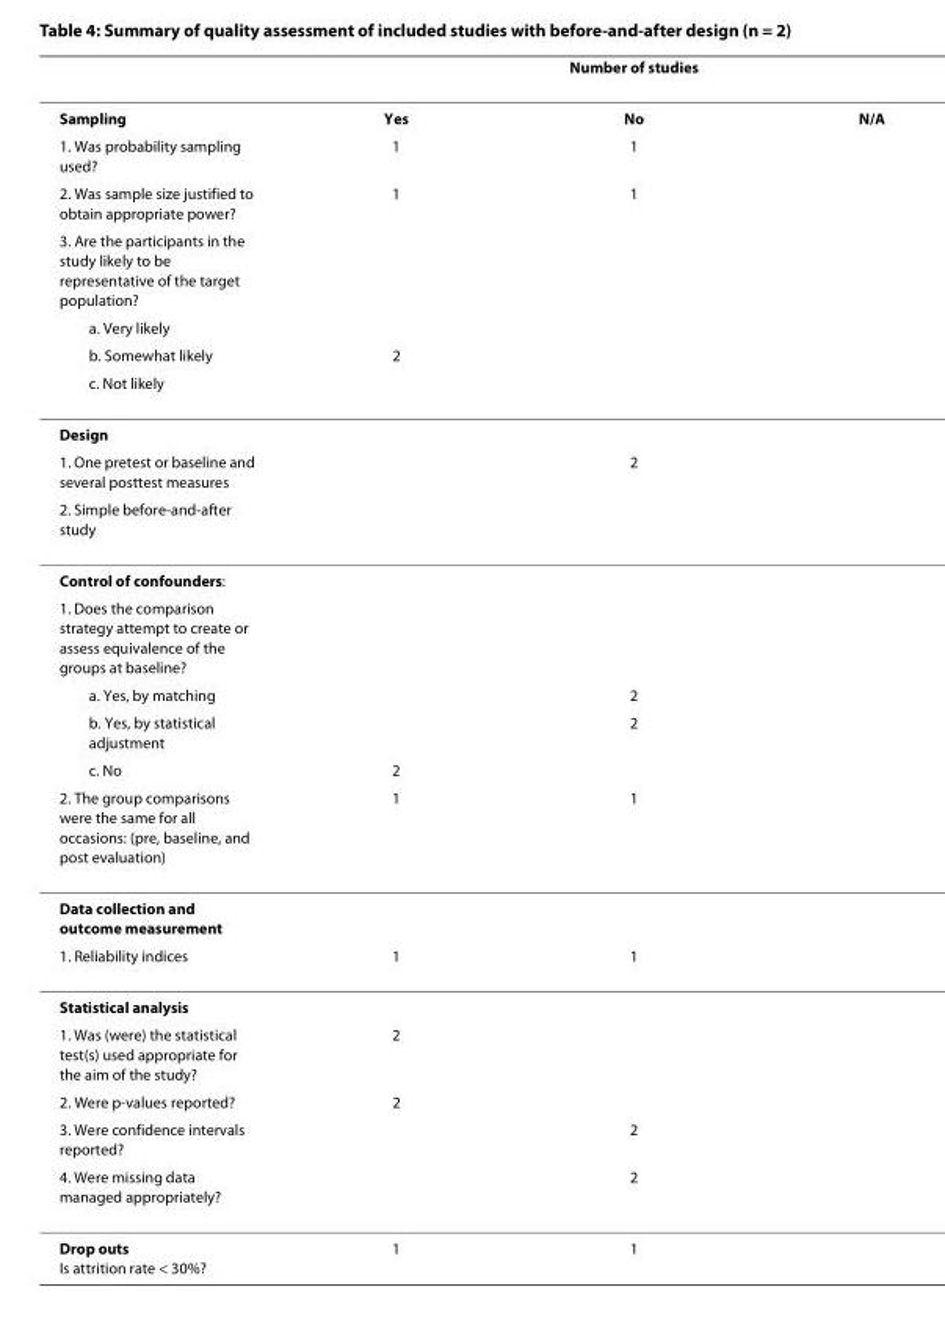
<table><thead><tr><td rowspan="2">Sampling</td><td colspan="3">Number of studies</td></tr><tr><td>Yes</td><td>No</td><td>N/A</td></tr></thead><tbody><tr><td>1. Was probability sampling used?</td><td>1</td><td>1</td><td></td></tr><tr><td>2. Was sample size justified to obtain appropriate power?</td><td>1</td><td>1</td><td></td></tr><tr><td colspan="4">3. Are the participants in the study likely to be representative of the target population?</td></tr><tr><td colspan="4">a. Very likely</td></tr><tr><td>b. Somewhat likely</td><td>2</td><td></td><td></td></tr><tr><td colspan="4">c. Not likely</td></tr><tr><td colspan="4">Design</td></tr><tr><td>1. One pretest or baseline and several posttest measures</td><td></td><td>2</td><td></td></tr><tr><td colspan="4">2. Simple before-and-after study</td></tr><tr><td colspan="4">Control of confounders:</td></tr><tr><td colspan="4">1. Does the comparison strategy attempt to create or assess equivalence of the groups at baseline?</td></tr><tr><td>a. Yes, by matching</td><td></td><td>2</td><td></td></tr><tr><td>b. Yes, by statistical adjustment</td><td></td><td>2</td><td></td></tr><tr><td>c. No</td><td>2</td><td></td><td></td></tr><tr><td>2. The group comparisons were the same for all occasions: (pre, baseline, and post evaluation)</td><td>1</td><td>1</td><td></td></tr><tr><td colspan="4">Data collection and outcome measurement</td></tr><tr><td>1. Reliability indices</td><td>1</td><td>1</td><td></td></tr><tr><td colspan="4">Statistical analysis</td></tr><tr><td>1. Was (were) the statistical test(s) used appropriate for the aim of the study?</td><td>2</td><td></td><td></td></tr><tr><td>2. Were p-values reported?</td><td>2</td><td></td><td></td></tr><tr><td>3. Were confidence intervals reported?</td><td></td><td>2</td><td></td></tr><tr><td>4. Were missing data managed appropriately?</td><td></td><td>2</td><td></td></tr><tr><td>Drop outs Is attrition rate &lt; 30%?</td><td>1</td><td>1</td><td></td></tr></tbody></table>